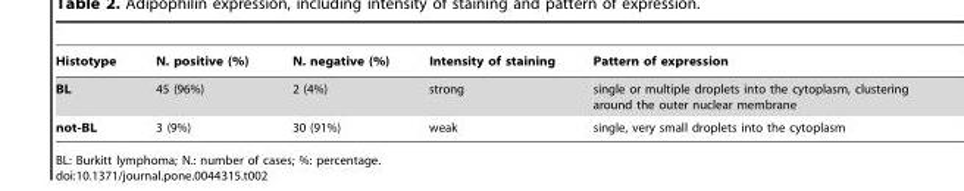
<table><thead><tr><td>Histotype</td><td>N. positive (%)</td><td>N. negative (%)</td><td>Intensity of staining</td><td>Pattern of expression</td></tr></thead><tbody><tr><td>BL</td><td>45 (96%)</td><td>2 (4%)</td><td>strong</td><td>single or multiple droplets into the cytoplasm, clustering around the outer nuclear membrane</td></tr><tr><td>not-BL</td><td>3 (9%)</td><td>30 (91%)</td><td>weak</td><td>single, very small droplets into the cytoplasm</td></tr></tbody></table>